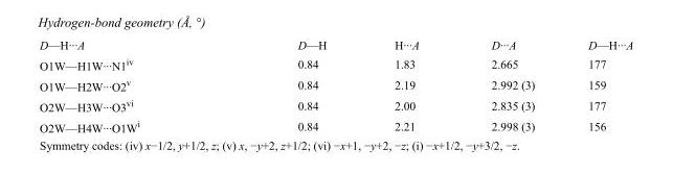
<table><tbody><tr><td>D—H···A</td><td>D—H</td><td>H···A</td><td>D···A</td><td>D—H···A</td></tr><tr><td>O1W—H1W···N1<sup>iv</sup></td><td>0.84</td><td>1.83</td><td>2.665</td><td>177</td></tr><tr><td>O1W—H2W···O2<sup>v</sup></td><td>0.84</td><td>2.19</td><td>2.992 (3)</td><td>159</td></tr><tr><td>O2W—H3W···O3<sup>vi</sup></td><td>0.84</td><td>2.00</td><td>2.835 (3)</td><td>177</td></tr><tr><td>O2W—H4W···O1W<sup>i</sup></td><td>0.84</td><td>2.21</td><td>2.998 (3)</td><td>156</td></tr></tbody></table>